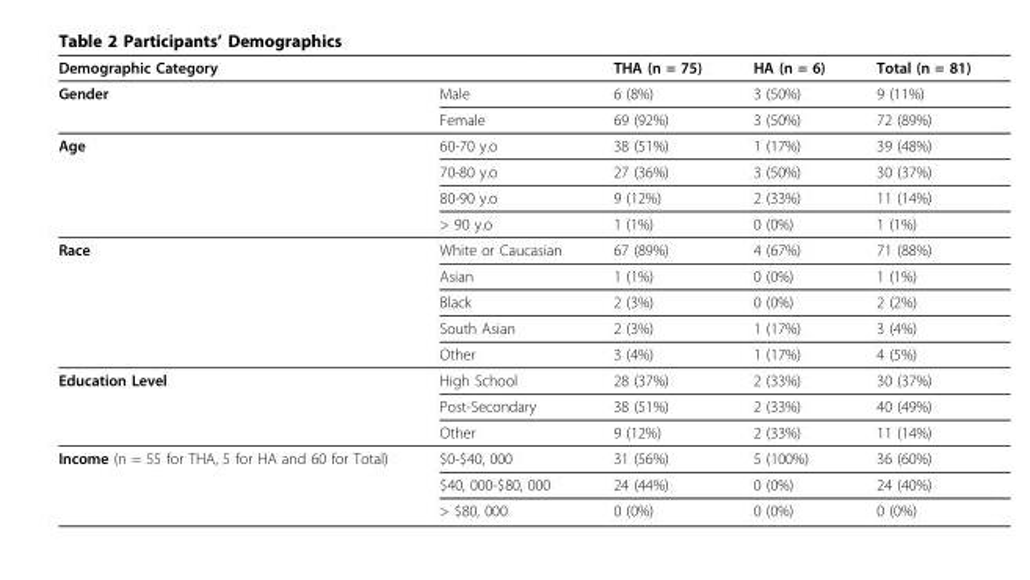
<table><thead><tr><td colspan="2">Demographic Category</td><td rowspan="2">THA (n = 75) 6 (8%)</td><td rowspan="2">HA (n = 6) 3 (50%)</td><td rowspan="2">Total (n = 81) 9 (11%)</td></tr><tr><td>Gender</td><td>Male</td></tr></thead><tbody><tr><td></td><td>Female</td><td>69 (92%)</td><td>3 (50%)</td><td>72 (89%)</td></tr><tr><td rowspan="4">Age</td><td>60-70 y.o</td><td>38 (51%)</td><td>1 (17%)</td><td>39 (48%)</td></tr><tr><td>70-80 y.o</td><td>27 (36%)</td><td>3 (50%)</td><td>30 (37%)</td></tr><tr><td>80-90 y.o</td><td>9 (12%)</td><td>2 (33%)</td><td>11 (14%)</td></tr><tr><td>&gt; 90 y.o</td><td>1 (1%)</td><td>0 (0%)</td><td>1 (1%)</td></tr><tr><td rowspan="5">Race</td><td>White or Caucasian</td><td>67 (89%)</td><td>4 (67%)</td><td>71 (88%)</td></tr><tr><td>Asian</td><td>1 (1%)</td><td>0 (0%)</td><td>1 (1%)</td></tr><tr><td>Black</td><td>2 (3%)</td><td>0 (0%)</td><td>2 (2%)</td></tr><tr><td>South Asian</td><td>2 (3%)</td><td>1 (17%)</td><td>3 (4%)</td></tr><tr><td>Other</td><td>3 (4%)</td><td>1 (17%)</td><td>4 (5%)</td></tr><tr><td rowspan="3">Education Level</td><td>High School</td><td>28 (37%)</td><td>2 (33%)</td><td>30 (37%)</td></tr><tr><td>Post-Secondary</td><td>38 (51%)</td><td>2 (33%)</td><td>40 (49%)</td></tr><tr><td>Other</td><td>9 (12%)</td><td>2 (33%)</td><td>11 (14%)</td></tr><tr><td rowspan="3">Income (n = 55 for THA, 5 for HA and 60 for Total)</td><td>$0-$40, 000</td><td>31 (56%)</td><td>5 (100%)</td><td>36 (60%)</td></tr><tr><td>$40, 000-$80, 000</td><td>24 (44%)</td><td>0 (0%)</td><td>24 (40%)</td></tr><tr><td>&gt; $80, 000</td><td>0 (0%)</td><td>0 (0%)</td><td>0 (0%)</td></tr></tbody></table>